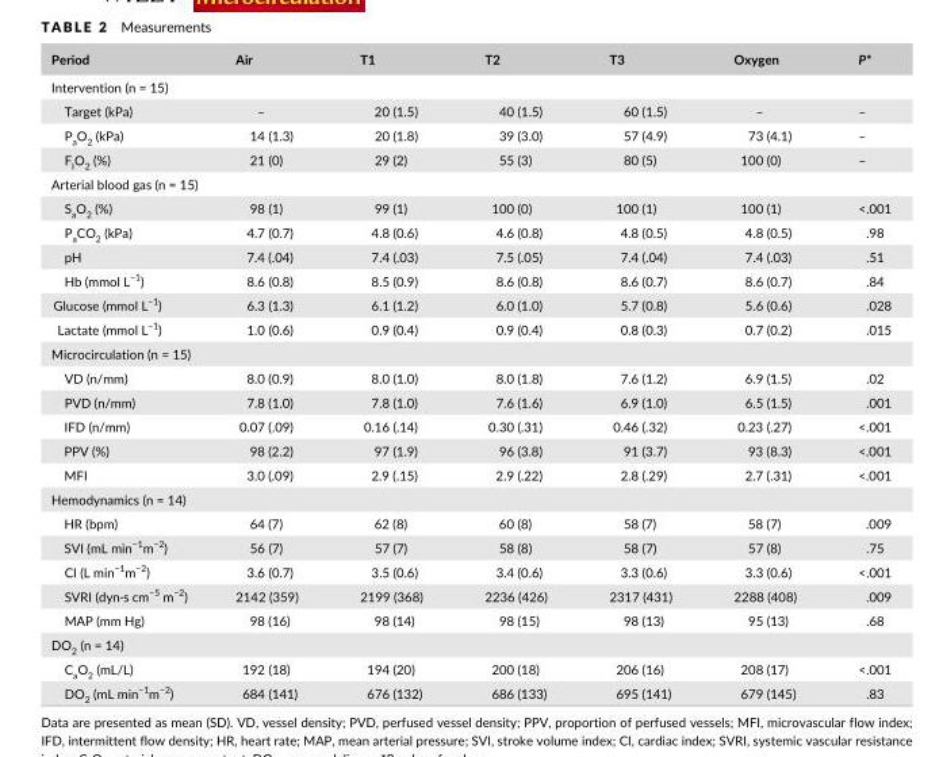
<table><thead><tr><td>Period</td><td>Air</td><td>T1</td><td>T2</td><td>T3</td><td>Oxygen</td><td>P*</td></tr></thead><tbody><tr><td colspan="7">Intervention (n = 15)</td></tr><tr><td>Target (kPa)</td><td>–</td><td>20 (1.5)</td><td>40 (1.5)</td><td>60 (1.5)</td><td>–</td><td>–</td></tr><tr><td>P<sub>a</sub>O<sub>2</sub> (kPa)</td><td>14 (1.3)</td><td>20 (1.8)</td><td>39 (3.0)</td><td>57 (4.9)</td><td>73 (4.1)</td><td>–</td></tr><tr><td>F<sub>I</sub>O<sub>2</sub> (%)</td><td>21 (0)</td><td>29 (2)</td><td>55 (3)</td><td>80 (5)</td><td>100 (0)</td><td>–</td></tr><tr><td colspan="7">Arterial blood gas (n = 15)</td></tr><tr><td>S<sub>a</sub>O<sub>2</sub> (%)</td><td>98 (1)</td><td>99 (1)</td><td>100 (0)</td><td>100 (1)</td><td>100 (1)</td><td>&lt;.001</td></tr><tr><td>P<sub>a</sub>CO<sub>2</sub> (kPa)</td><td>4.7 (0.7)</td><td>4.8 (0.6)</td><td>4.6 (0.8)</td><td>4.8 (0.5)</td><td>4.8 (0.5)</td><td>.98</td></tr><tr><td>pH</td><td>7.4 (.04)</td><td>7.4 (.03)</td><td>7.5 (.05)</td><td>7.4 (.04)</td><td>7.4 (.03)</td><td>.51</td></tr><tr><td>Hb (mmol L<sup>−1</sup>)</td><td>8.6 (0.8)</td><td>8.5 (0.9)</td><td>8.6 (0.8)</td><td>8.6 (0.7)</td><td>8.6 (0.7)</td><td>.84</td></tr><tr><td>Glucose (mmol L<sup>−1</sup>)</td><td>6.3 (1.3)</td><td>6.1 (1.2)</td><td>6.0 (1.0)</td><td>5.7 (0.8)</td><td>5.6 (0.6)</td><td>.028</td></tr><tr><td>Lactate (mmol L<sup>−1</sup>)</td><td>1.0 (0.6)</td><td>0.9 (0.4)</td><td>0.9 (0.4)</td><td>0.8 (0.3)</td><td>0.7 (0.2)</td><td>.015</td></tr><tr><td colspan="7">Microcirculation (n = 15)</td></tr><tr><td>VD (n/mm)</td><td>8.0 (0.9)</td><td>8.0 (1.0)</td><td>8.0 (1.8)</td><td>7.6 (1.2)</td><td>6.9 (1.5)</td><td>.02</td></tr><tr><td>PVD (n/mm)</td><td>7.8 (1.0)</td><td>7.8 (1.0)</td><td>7.6 (1.6)</td><td>6.9 (1.0)</td><td>6.5 (1.5)</td><td>.001</td></tr><tr><td>IFD (n/mm)</td><td>0.07 (.09)</td><td>0.16 (.14)</td><td>0.30 (.31)</td><td>0.46 (.32)</td><td>0.23 (.27)</td><td>&lt;.001</td></tr><tr><td>PPV (%)</td><td>98 (2.2)</td><td>97 (1.9)</td><td>96 (3.8)</td><td>91 (3.7)</td><td>93 (8.3)</td><td>&lt;.001</td></tr><tr><td>MFI</td><td>3.0 (.09)</td><td>2.9 (.15)</td><td>2.9 (.22)</td><td>2.8 (.29)</td><td>2.7 (.31)</td><td>&lt;.001</td></tr><tr><td colspan="7">Hemodynamics (n = 14)</td></tr><tr><td>HR (bpm)</td><td>64 (7)</td><td>62 (8)</td><td>60 (8)</td><td>58 (7)</td><td>58 (7)</td><td>.009</td></tr><tr><td>SVI (mL min<sup>−1</sup>m<sup>−2</sup>)</td><td>56 (7)</td><td>57 (7)</td><td>58 (8)</td><td>58 (7)</td><td>57 (8)</td><td>.75</td></tr><tr><td>CI (L min<sup>−1</sup>m<sup>−2</sup>)</td><td>3.6 (0.7)</td><td>3.5 (0.6)</td><td>3.4 (0.6)</td><td>3.3 (0.6)</td><td>3.3 (0.6)</td><td>&lt;.001</td></tr><tr><td>SVRI (dyn·s cm<sup>−5</sup> m<sup>−2</sup>)</td><td>2142 (359)</td><td>2199 (368)</td><td>2236 (426)</td><td>2317 (431)</td><td>2288 (408)</td><td>.009</td></tr><tr><td>MAP (mm Hg)</td><td>98 (16)</td><td>98 (14)</td><td>98 (15)</td><td>98 (13)</td><td>95 (13)</td><td>.68</td></tr><tr><td colspan="7">DO<sub>2</sub> (n = 14)</td></tr><tr><td>C<sub>a</sub>O<sub>2</sub> (mL/L)</td><td>192 (18)</td><td>194 (20)</td><td>200 (18)</td><td>206 (16)</td><td>208 (17)</td><td>&lt;.001</td></tr><tr><td>DO<sub>2</sub> (mL min<sup>−1</sup>m<sup>−2</sup>)</td><td>684 (141)</td><td>676 (132)</td><td>686 (133)</td><td>695 (141)</td><td>679 (145)</td><td>.83</td></tr></tbody></table>